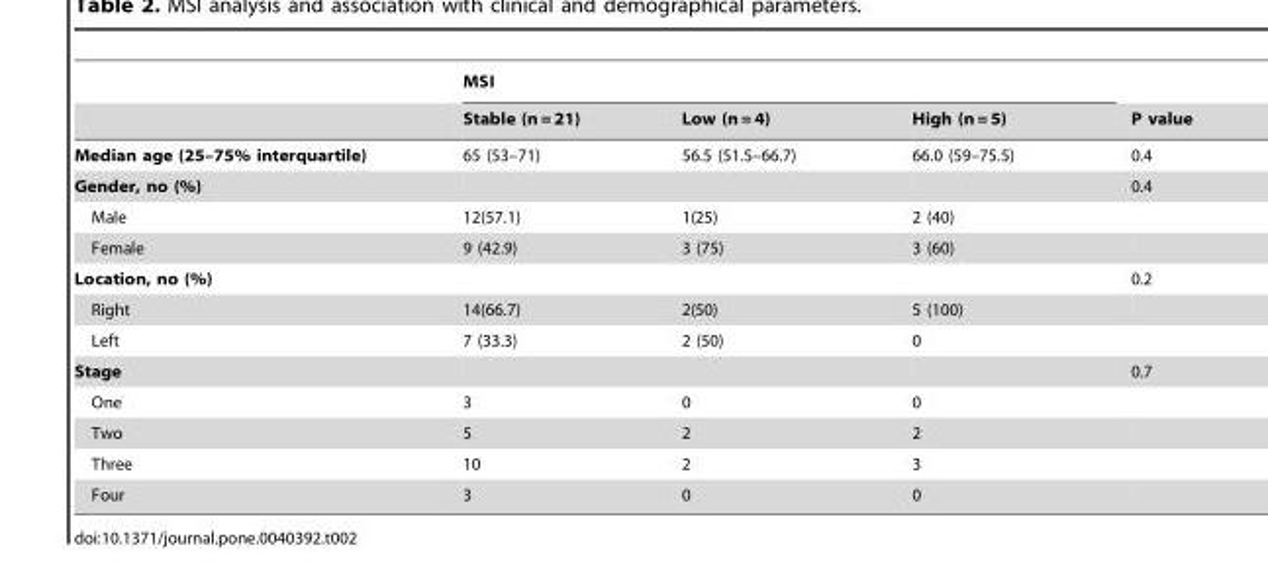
<table><thead><tr><td rowspan="2"></td><td colspan="3">MSI</td><td rowspan="2">P value</td></tr><tr><td>Stable (n = 21)</td><td>Low (n = 4)</td><td>High (n = 5)</td></tr></thead><tbody><tr><td>Median age (25–75% interquartile)</td><td>65 (53–71)</td><td>56.5 (51.5–66.7)</td><td>66.0 (59–75.5)</td><td>0.4</td></tr><tr><td>Gender, no (%)</td><td></td><td></td><td></td><td>0.4</td></tr><tr><td>Male</td><td>12(57.1)</td><td>1(25)</td><td>2 (40)</td><td></td></tr><tr><td>Female</td><td>9 (42.9)</td><td>3 (75)</td><td>3 (60)</td><td></td></tr><tr><td>Location, no (%)</td><td></td><td></td><td></td><td>0.2</td></tr><tr><td>Right</td><td>14(66.7)</td><td>2(50)</td><td>5 (100)</td><td></td></tr><tr><td>Left</td><td>7 (33.3)</td><td>2 (50)</td><td>0</td><td></td></tr><tr><td>Stage</td><td></td><td></td><td></td><td>0.7</td></tr><tr><td>One</td><td>3</td><td>0</td><td>0</td><td></td></tr><tr><td>Two</td><td>5</td><td>2</td><td>2</td><td></td></tr><tr><td>Three</td><td>10</td><td>2</td><td>3</td><td></td></tr><tr><td>Four</td><td>3</td><td>0</td><td>0</td><td></td></tr></tbody></table>